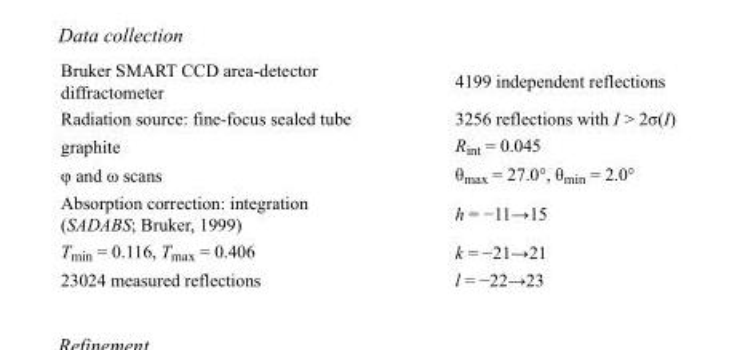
<table><tbody><tr><td>Bruker SMART CCD area-detector diffractometer</td><td>4199 independent reflections</td></tr><tr><td>Radiation source: fine-focus sealed tube</td><td>3256 reflections with I &gt; 2σ(I)</td></tr><tr><td>graphite</td><td>R<sub>int</sub> = 0.045</td></tr><tr><td>φ and ω scans</td><td>θ<sub>max</sub> = 27.0°, θ<sub>min</sub> = 2.0°</td></tr><tr><td>Absorption correction: integration (SADABS; Bruker, 1999)</td><td>h = −11→15</td></tr><tr><td>T<sub>min</sub> = 0.116, T<sub>max</sub> = 0.406</td><td>k = −21→21</td></tr><tr><td>23024 measured reflections</td><td>l = −22→23</td></tr></tbody></table>